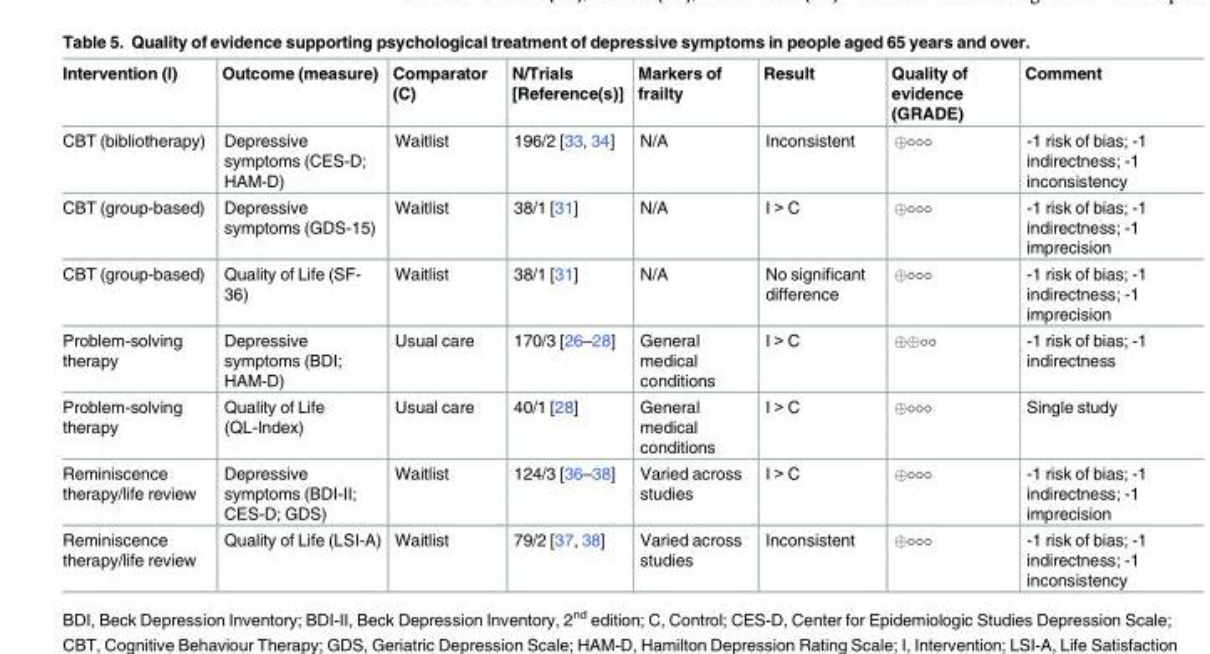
<table><thead><tr><td>Intervention (I)</td><td>Outcome (measure)</td><td>Comparator (C)</td><td>N/Trials [Reference(s)]</td><td>Markers of frailty</td><td>Result</td><td>Quality of evidence (GRADE)</td><td>Comment</td></tr></thead><tbody><tr><td>CBT (bibliotherapy)</td><td>Depressive symptoms (CES-D; HAM-D)</td><td>Waitlist</td><td>196/2 [33, 34]</td><td>N/A</td><td>Inconsistent</td><td>⊕○○○</td><td>-1 risk of bias; -1 indirectness; -1 inconsistency</td></tr><tr><td>CBT (group-based)</td><td>Depressive symptoms (GDS-15)</td><td>Waitlist</td><td>38/1 [31]</td><td>N/A</td><td>I &gt; C</td><td>⊕○○○</td><td>-1 risk of bias; -1 indirectness; -1 imprecision</td></tr><tr><td>CBT (group-based)</td><td>Quality of Life (SF- 36)</td><td>Waitlist</td><td>38/1 [31]</td><td>N/A</td><td>No significant difference</td><td>⊕○○○</td><td>-1 risk of bias; -1 indirectness; -1 imprecision</td></tr><tr><td>Problem-solving therapy</td><td>Depressive symptoms (BDI; HAM-D)</td><td>Usual care</td><td>170/3 [26–28]</td><td>General medical conditions</td><td>I &gt; C</td><td>⊕⊕○○</td><td>-1 risk of bias; -1 indirectness</td></tr><tr><td>Problem-solving therapy</td><td>Quality of Life (QL-Index)</td><td>Usual care</td><td>40/1 [28]</td><td>General medical conditions</td><td>I &gt; C</td><td>⊕○○○</td><td>Single study</td></tr><tr><td>Reminiscence therapy/life review</td><td>Depressive symptoms (BDI-II; CES-D; GDS)</td><td>Waitlist</td><td>124/3 [36–38]</td><td>Varied across studies</td><td>I &gt; C</td><td>⊕○○○</td><td>-1 risk of bias; -1 indirectness; -1 imprecision</td></tr><tr><td>Reminiscence therapy/life review</td><td>Quality of Life (LSI-A)</td><td>Waitlist</td><td>79/2 [37, 38]</td><td>Varied across studies</td><td>Inconsistent</td><td>⊕○○○</td><td>-1 risk of bias; -1 indirectness; -1 inconsistency</td></tr></tbody></table>